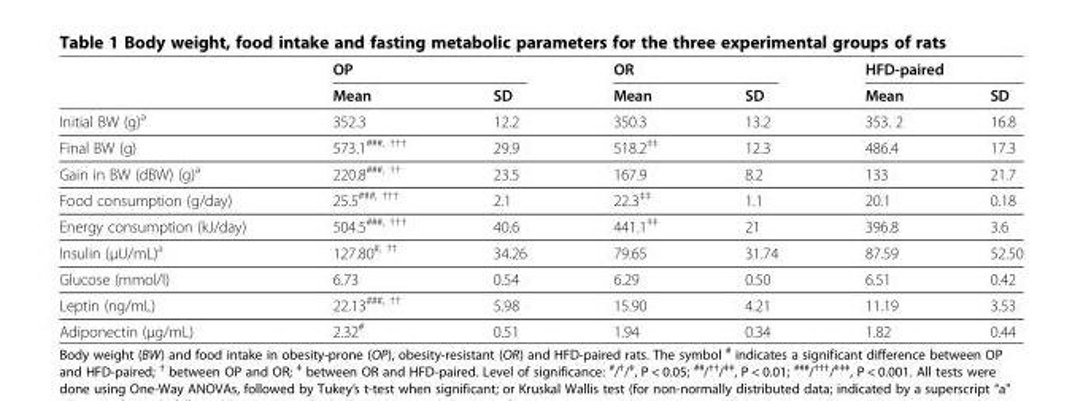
<table><thead><tr><td rowspan="2"></td><td colspan="2">OP</td><td colspan="2">OR</td><td colspan="2">HFD-paired</td></tr><tr><td>Mean</td><td>SD</td><td>Mean</td><td>SD</td><td>Mean</td><td>SD</td></tr></thead><tbody><tr><td>Initial BW (g)<sup>a</sup></td><td>352.3</td><td>12.2</td><td>350.3</td><td>13.2</td><td>353. 2</td><td>16.8</td></tr><tr><td>Final BW (g)</td><td>573.1<sup>###, †††</sup></td><td>29.9</td><td>518.2<sup>‡‡</sup></td><td>12.3</td><td>486.4</td><td>17.3</td></tr><tr><td>Gain in BW (dBW) (g)<sup>a</sup></td><td>220.8<sup>###, ††</sup></td><td>23.5</td><td>167.9</td><td>8.2</td><td>133</td><td>21.7</td></tr><tr><td>Food consumption (g/day)</td><td>25.5<sup>###, †††</sup></td><td>2.1</td><td>22.3<sup>‡‡</sup></td><td>1.1</td><td>20.1</td><td>0.18</td></tr><tr><td>Energy consumption (kJ/day)</td><td>504.5<sup>###, †††</sup></td><td>40.6</td><td>441.1<sup>‡‡</sup></td><td>21</td><td>396.8</td><td>3.6</td></tr><tr><td>Insulin (μU/mL)<sup>a</sup></td><td>127.80<sup>#, ††</sup></td><td>34.26</td><td>79.65</td><td>31.74</td><td>87.59</td><td>52.50</td></tr><tr><td>Glucose (mmol/l)</td><td>6.73</td><td>0.54</td><td>6.29</td><td>0.50</td><td>6.51</td><td>0.42</td></tr><tr><td>Leptin (ng/mL)</td><td>22.13<sup>###, ††</sup></td><td>5.98</td><td>15.90</td><td>4.21</td><td>11.19</td><td>3.53</td></tr><tr><td>Adiponectin (μg/mL)</td><td>2.32<sup>#</sup></td><td>0.51</td><td>1.94</td><td>0.34</td><td>1.82</td><td>0.44</td></tr></tbody></table>